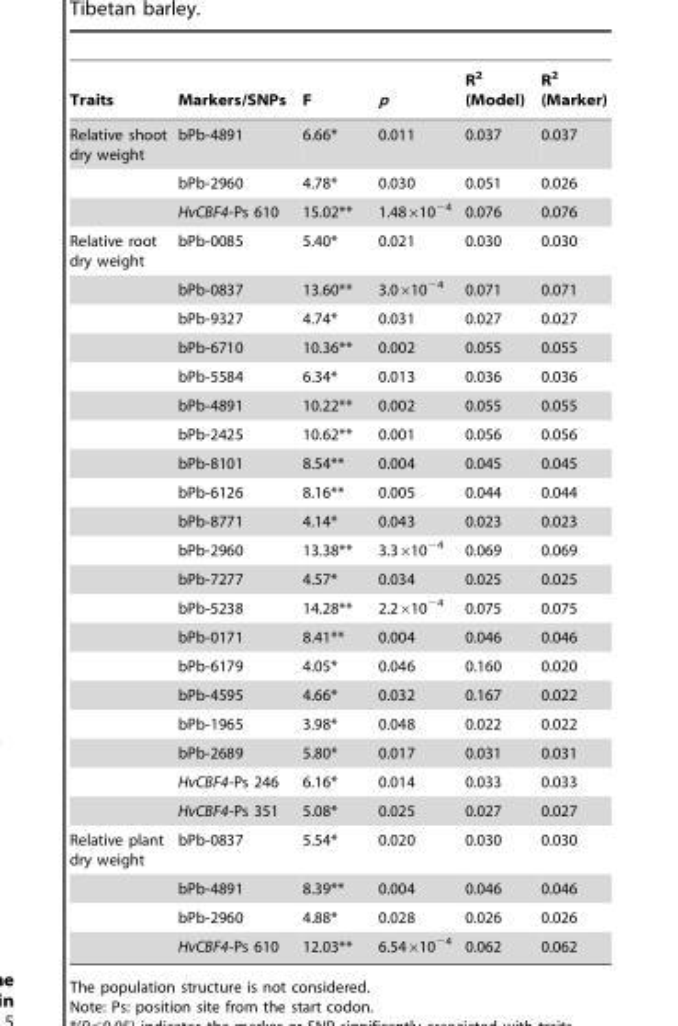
<table><thead><tr><td>Traits</td><td>Markers/SNPs</td><td>F</td><td>p</td><td>R<sup>2</sup> (Model)</td><td>R<sup>2</sup> (Marker)</td></tr></thead><tbody><tr><td rowspan="3">Relative shoot dry weight</td><td>bPb-4891</td><td>6.66*</td><td>0.011</td><td>0.037</td><td>0.037</td></tr><tr><td>bPb-2960</td><td>4.78*</td><td>0.030</td><td>0.051</td><td>0.026</td></tr><tr><td>HvCBF4-Ps 610</td><td>15.02**</td><td>1.48×10<sup>−4</sup></td><td>0.076</td><td>0.076</td></tr><tr><td rowspan="20">Relative root dry weight</td><td>bPb-0085</td><td>5.40*</td><td>0.021</td><td>0.030</td><td>0.030</td></tr><tr><td>bPb-0837</td><td>13.60**</td><td>3.0×10<sup>−4</sup></td><td>0.071</td><td>0.071</td></tr><tr><td>bPb-9327</td><td>4.74*</td><td>0.031</td><td>0.027</td><td>0.027</td></tr><tr><td>bPb-6710</td><td>10.36**</td><td>0.002</td><td>0.055</td><td>0.055</td></tr><tr><td>bPb-5584</td><td>6.34*</td><td>0.013</td><td>0.036</td><td>0.036</td></tr><tr><td>bPb-4891</td><td>10.22**</td><td>0.002</td><td>0.055</td><td>0.055</td></tr><tr><td>bPb-2425</td><td>10.62**</td><td>0.001</td><td>0.056</td><td>0.056</td></tr><tr><td>bPb-8101</td><td>8.54**</td><td>0.004</td><td>0.045</td><td>0.045</td></tr><tr><td>bPb-6126</td><td>8.16**</td><td>0.005</td><td>0.044</td><td>0.044</td></tr><tr><td>bPb-8771</td><td>4.14*</td><td>0.043</td><td>0.023</td><td>0.023</td></tr><tr><td>bPb-2960</td><td>13.38**</td><td>3.3×10<sup>−4</sup></td><td>0.069</td><td>0.069</td></tr><tr><td>bPb-7277</td><td>4.57*</td><td>0.034</td><td>0.025</td><td>0.025</td></tr><tr><td>bPb-5238</td><td>14.28**</td><td>2.2×10<sup>−4</sup></td><td>0.075</td><td>0.075</td></tr><tr><td>bPb-0171</td><td>8.41**</td><td>0.004</td><td>0.046</td><td>0.046</td></tr><tr><td>bPb-6179</td><td>4.05*</td><td>0.046</td><td>0.160</td><td>0.020</td></tr><tr><td>bPb-4595</td><td>4.66*</td><td>0.032</td><td>0.167</td><td>0.022</td></tr><tr><td>bPb-1965</td><td>3.98*</td><td>0.048</td><td>0.022</td><td>0.022</td></tr><tr><td>bPb-2689</td><td>5.80*</td><td>0.017</td><td>0.031</td><td>0.031</td></tr><tr><td>HvCBF4-Ps 246</td><td>6.16*</td><td>0.014</td><td>0.033</td><td>0.033</td></tr><tr><td>HvCBF4-Ps 351</td><td>5.08*</td><td>0.025</td><td>0.027</td><td>0.027</td></tr><tr><td rowspan="4">Relative plant dry weight</td><td>bPb-0837</td><td>5.54*</td><td>0.020</td><td>0.030</td><td>0.030</td></tr><tr><td>bPb-4891</td><td>8.39**</td><td>0.004</td><td>0.046</td><td>0.046</td></tr><tr><td>bPb-2960</td><td>4.88*</td><td>0.028</td><td>0.026</td><td>0.026</td></tr><tr><td>HvCBF4-Ps 610</td><td>12.03**</td><td>6.54×10<sup>−4</sup></td><td>0.062</td><td>0.062</td></tr></tbody></table>